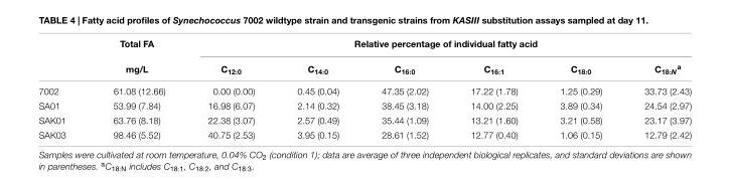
<table><thead><tr><td rowspan="2"></td><td rowspan="2">Total FA mg/L</td><td colspan="6">Relative percentage of individual fatty acid</td></tr><tr><td>C<sub>12:0</sub></td><td>C<sub>14:0</sub></td><td>C<sub>16:0</sub></td><td>C<sub>16:1</sub></td><td>C<sub>18:0</sub></td><td>C<sub>18:N</sub><sup>a</sup></td></tr></thead><tbody><tr><td>7002</td><td>61.08 (12.66)</td><td>0.00 (0.00)</td><td>0.45 (0.04)</td><td>47.35 (2.02)</td><td>17.22 (1.78)</td><td>1.25 (0.29)</td><td>33.73 (2.43)</td></tr><tr><td>SA01</td><td>53.99 (7.84)</td><td>16.98 (6.07)</td><td>2.14 (0.32)</td><td>38.45 (3.18)</td><td>14.00 (2.25)</td><td>3.89 (0.34)</td><td>24.54 (2.97)</td></tr><tr><td>SAK01</td><td>63.76 (8.18)</td><td>22.38 (3.07)</td><td>2.57 (0.49)</td><td>35.44 (1.09)</td><td>13.21 (1.60)</td><td>3.21 (0.58)</td><td>23.17 (3.97)</td></tr><tr><td>SAK03</td><td>98.46 (5.52)</td><td>40.75 (2.53)</td><td>3.95 (0.15)</td><td>28.61 (1.52)</td><td>12.77 (0.40)</td><td>1.06 (0.15)</td><td>12.79 (2.42)</td></tr></tbody></table>